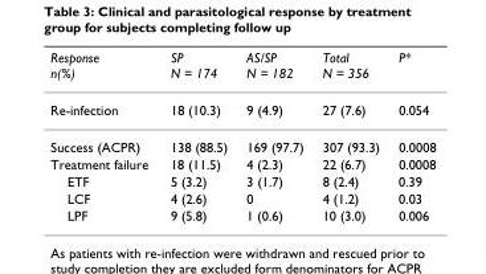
<table><thead><tr><td>Response n(%)</td><td>SP N = 174</td><td>AS/SP N = 182</td><td>Total N = 356</td><td>P*</td></tr></thead><tbody><tr><td>Re-infection</td><td>18 (10.3)</td><td>9 (4.9)</td><td>27 (7.6)</td><td>0.054</td></tr><tr><td>Success (ACPR)</td><td>138 (88.5)</td><td>169 (97.7)</td><td>307 (93.3)</td><td>0.0008</td></tr><tr><td>Treatment failure</td><td>18 (11.5)</td><td>4 (2.3)</td><td>22 (6.7)</td><td>0.0008</td></tr><tr><td>ETF</td><td>5 (3.2)</td><td>3 (1.7)</td><td>8 (2.4)</td><td>0.39</td></tr><tr><td>LCF</td><td>4 (2.6)</td><td>0</td><td>4 (1.2)</td><td>0.03</td></tr><tr><td>LPF</td><td>9 (5.8)</td><td>1 (0.6)</td><td>10 (3.0)</td><td>0.006</td></tr></tbody></table>